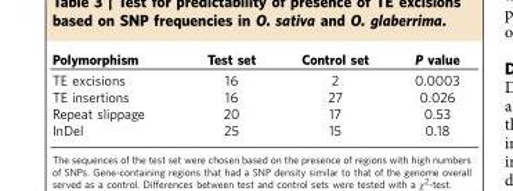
<table><thead><tr><td>Polymorphism</td><td>Test set</td><td>Control set</td><td>P value</td></tr></thead><tbody><tr><td>TE excisions</td><td>16</td><td>2</td><td>0.0003</td></tr><tr><td>TE insertions</td><td>16</td><td>27</td><td>0.026</td></tr><tr><td>Repeat slippage</td><td>20</td><td>17</td><td>0.53</td></tr><tr><td>InDel</td><td>25</td><td>15</td><td>0.18</td></tr></tbody></table>